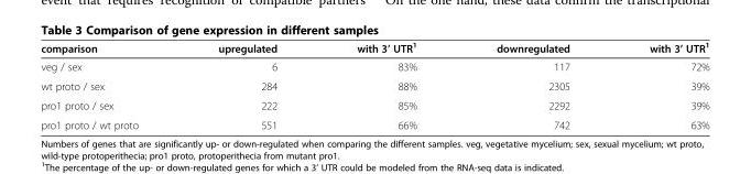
<table><thead><tr><td>comparison</td><td>upregulated</td><td>with 3’ UTR<sup>1</sup></td><td>downregulated</td><td>with 3’ UTR<sup>1</sup></td></tr></thead><tbody><tr><td>veg / sex</td><td>6</td><td>83%</td><td>117</td><td>72%</td></tr><tr><td>wt proto / sex</td><td>284</td><td>88%</td><td>2305</td><td>39%</td></tr><tr><td>pro1 proto / sex</td><td>222</td><td>85%</td><td>2292</td><td>39%</td></tr><tr><td>pro1 proto / wt proto</td><td>551</td><td>66%</td><td>742</td><td>63%</td></tr></tbody></table>